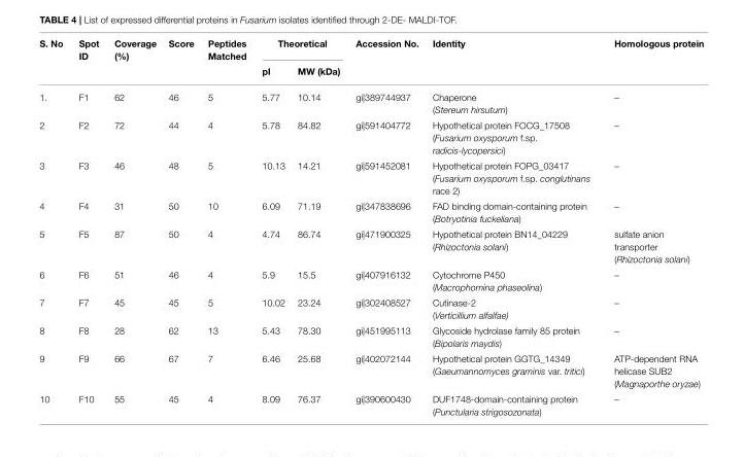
<table><thead><tr><td rowspan="2">S. No</td><td rowspan="2">Spot ID</td><td rowspan="2">Coverage (%)</td><td rowspan="2">Score</td><td rowspan="2">Peptides Matched</td><td colspan="2">Theoretical</td><td rowspan="2">Accession No.</td><td rowspan="2">Identity</td><td rowspan="2">Homologous protein</td></tr><tr><td>pI</td><td>MW (kDa)</td></tr></thead><tbody><tr><td>1.</td><td>F1</td><td>62</td><td>46</td><td>5</td><td>5.77</td><td>10.14</td><td>gi|389744937</td><td>Chaperone (Stereum hirsutum)</td><td>–</td></tr><tr><td>2</td><td>F2</td><td>72</td><td>44</td><td>4</td><td>5.78</td><td>84.82</td><td>gi|591404772</td><td>Hypothetical protein FOCG_17508 (Fusarium oxysporum f.sp. radicis-lycopersici)</td><td>–</td></tr><tr><td>3</td><td>F3</td><td>46</td><td>48</td><td>5</td><td>10.13</td><td>14.21</td><td>gi|591452081</td><td>Hypothetical protein FOPG_03417 (Fusarium oxysporum f.sp. conglutinans race 2)</td><td>–</td></tr><tr><td>4</td><td>F4</td><td>31</td><td>50</td><td>10</td><td>6.09</td><td>71.19</td><td>gi|347838696</td><td>FAD binding domain-containing protein (Botryotinia fuckeliana)</td><td>–</td></tr><tr><td>5</td><td>F5</td><td>87</td><td>50</td><td>4</td><td>4.74</td><td>86.74</td><td>gi|471900325</td><td>Hypothetical protein BN14_04229 (Rhizoctonia solani)</td><td>sulfate anion transporter (Rhizoctonia solani)</td></tr><tr><td>6</td><td>F6</td><td>51</td><td>46</td><td>4</td><td>5.9</td><td>15.5</td><td>gi|407916132</td><td>Cytochrome P450 (Macrophomina phaseolina)</td><td>–</td></tr><tr><td>7</td><td>F7</td><td>45</td><td>45</td><td>5</td><td>10.02</td><td>23.24</td><td>gi|302408527</td><td>Cutinase-2 (Verticillium alfalfae)</td><td>–</td></tr><tr><td>8</td><td>F8</td><td>28</td><td>62</td><td>13</td><td>5.43</td><td>78.30</td><td>gi|451995113</td><td>Glycoside hydrolase family 85 protein (Bipolaris maydis)</td><td>–</td></tr><tr><td>9</td><td>F9</td><td>66</td><td>67</td><td>7</td><td>6.46</td><td>25.68</td><td>gi|402072144</td><td>Hypothetical protein GGTG_14349 (Gaeumannomyces graminis var. tritici)</td><td>ATP-dependent RNA helicase SUB2 (Magnaporthe oryzae)</td></tr><tr><td>10</td><td>F10</td><td>55</td><td>45</td><td>4</td><td>8.09</td><td>76.37</td><td>gi|390600430</td><td>DUF1748-domain-containing protein (Punctularia strigosozonata)</td><td>–</td></tr></tbody></table>